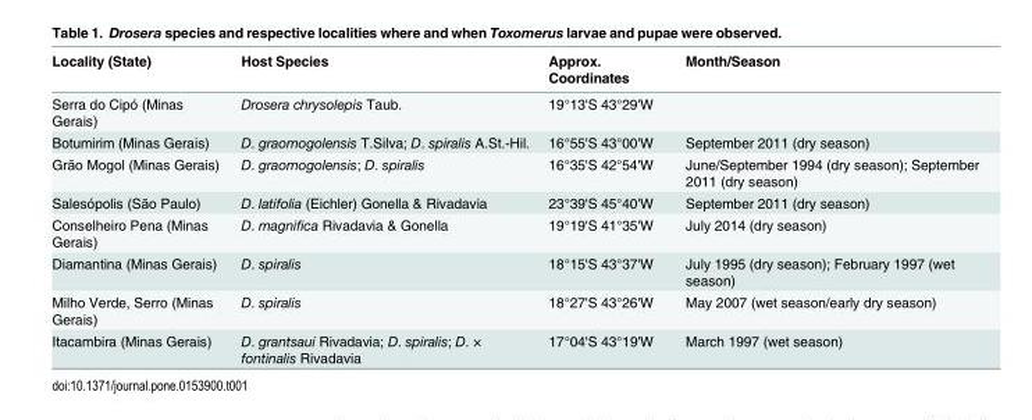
<table><thead><tr><td>Locality (State)</td><td>Host Species</td><td>Approx. Coordinates</td><td>Month/Season</td></tr></thead><tbody><tr><td>Serra do Cipó (Minas Gerais)</td><td>Drosera chrysolepis Taub.</td><td>19°13&#x27;S 43°29&#x27;W</td><td></td></tr><tr><td>Botumirim (Minas Gerais)</td><td>D. graomogolensis T.Silva; D. spiralis A.St.-Hil.</td><td>16°55&#x27;S 43°00&#x27;W</td><td>September 2011 (dry season)</td></tr><tr><td>Grão Mogol (Minas Gerais)</td><td>D. graomogolensis; D. spiralis</td><td>16°35&#x27;S 42°54&#x27;W</td><td>June/September 1994 (dry season); September 2011 (dry season)</td></tr><tr><td>Salesópolis (São Paulo)</td><td>D. latifolia (Eichler) Gonella &amp; Rivadavia</td><td>23°39&#x27;S 45°40&#x27;W</td><td>September 2011 (dry season)</td></tr><tr><td>Conselheiro Pena (Minas Gerais)</td><td>D. magnifica Rivadavia &amp; Gonella</td><td>19°19&#x27;S 41°35&#x27;W</td><td>July 2014 (dry season)</td></tr><tr><td>Diamantina (Minas Gerais)</td><td>D. spiralis</td><td>18°15&#x27;S 43°37&#x27;W</td><td>July 1995 (dry season); February 1997 (wet season)</td></tr><tr><td>Milho Verde, Serro (Minas Gerais)</td><td>D. spiralis</td><td>18°27&#x27;S 43°26&#x27;W</td><td>May 2007 (wet season/early dry season)</td></tr><tr><td>Itacambira (Minas Gerais)</td><td>D. grantsaui Rivadavia; D. spiralis; D. × fontinalis Rivadavia</td><td>17°04&#x27;S 43°19&#x27;W</td><td>March 1997 (wet season)</td></tr></tbody></table>